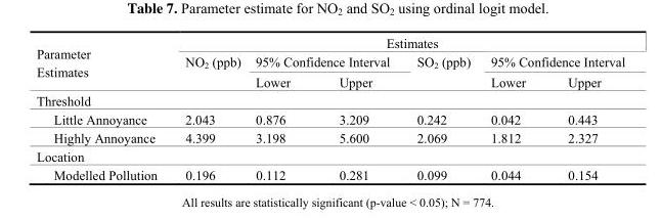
<table><thead><tr><td rowspan="3">Parameter Estimates</td><td colspan="6">Estimates</td></tr><tr><td rowspan="2">NO<sub>2</sub> (ppb)</td><td colspan="2">95% Confidence Interval</td><td rowspan="2">SO<sub>2</sub> (ppb)</td><td colspan="2">95% Confidence Interval</td></tr><tr><td>Lower</td><td>Upper</td><td>Lower</td><td>Upper</td></tr></thead><tbody><tr><td colspan="7">Threshold</td></tr><tr><td>Little Annoyance</td><td>2.043</td><td>0.876</td><td>3.209</td><td>0.242</td><td>0.042</td><td>0.443</td></tr><tr><td>Highly Annoyance</td><td>4.399</td><td>3.198</td><td>5.600</td><td>2.069</td><td>1.812</td><td>2.327</td></tr><tr><td colspan="7">Location</td></tr><tr><td>Modelled Pollution</td><td>0.196</td><td>0.112</td><td>0.281</td><td>0.099</td><td>0.044</td><td>0.154</td></tr></tbody></table>